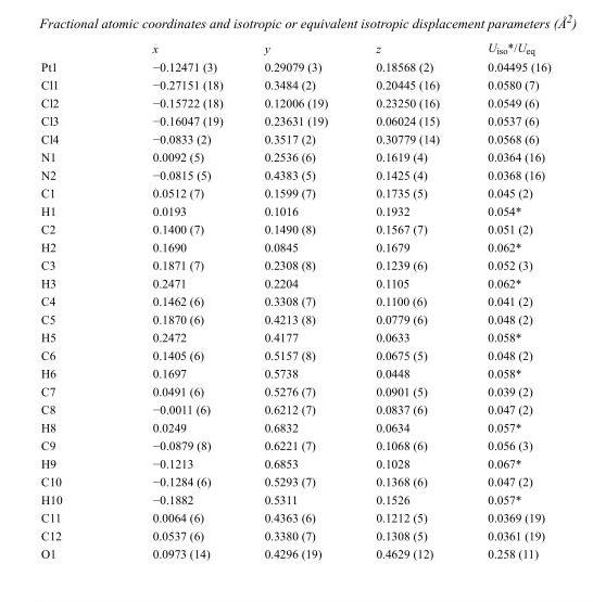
<table><thead><tr><td></td><td>x</td><td>y</td><td>z</td><td>U<sub>iso</sub>*/U<sub>eq</sub></td></tr></thead><tbody><tr><td>Pt1</td><td>−0.12471 (3)</td><td>0.29079 (3)</td><td>0.18568 (2)</td><td>0.04495 (16)</td></tr><tr><td>Cl1</td><td>−0.27151 (18)</td><td>0.3484 (2)</td><td>0.20445 (16)</td><td>0.0580 (7)</td></tr><tr><td>Cl2</td><td>−0.15722 (18)</td><td>0.12006 (19)</td><td>0.23250 (16)</td><td>0.0549 (6)</td></tr><tr><td>Cl3</td><td>−0.16047 (19)</td><td>0.23631 (19)</td><td>0.06024 (15)</td><td>0.0537 (6)</td></tr><tr><td>Cl4</td><td>−0.0833 (2)</td><td>0.3517 (2)</td><td>0.30779 (14)</td><td>0.0568 (6)</td></tr><tr><td>N1</td><td>0.0092 (5)</td><td>0.2536 (6)</td><td>0.1619 (4)</td><td>0.0364 (16)</td></tr><tr><td>N2</td><td>−0.0815 (5)</td><td>0.4383 (5)</td><td>0.1425 (4)</td><td>0.0368 (16)</td></tr><tr><td>C1</td><td>0.0512 (7)</td><td>0.1599 (7)</td><td>0.1735 (5)</td><td>0.045 (2)</td></tr><tr><td>H1</td><td>0.0193</td><td>0.1016</td><td>0.1932</td><td>0.054*</td></tr><tr><td>C2</td><td>0.1400 (7)</td><td>0.1490 (8)</td><td>0.1567 (7)</td><td>0.051 (2)</td></tr><tr><td>H2</td><td>0.1690</td><td>0.0845</td><td>0.1679</td><td>0.062*</td></tr><tr><td>C3</td><td>0.1871 (7)</td><td>0.2308 (8)</td><td>0.1239 (6)</td><td>0.052 (3)</td></tr><tr><td>H3</td><td>0.2471</td><td>0.2204</td><td>0.1105</td><td>0.062*</td></tr><tr><td>C4</td><td>0.1462 (6)</td><td>0.3308 (7)</td><td>0.1100 (6)</td><td>0.041 (2)</td></tr><tr><td>C5</td><td>0.1870 (6)</td><td>0.4213 (8)</td><td>0.0779 (6)</td><td>0.048 (2)</td></tr><tr><td>H5</td><td>0.2472</td><td>0.4177</td><td>0.0633</td><td>0.058*</td></tr><tr><td>C6</td><td>0.1405 (6)</td><td>0.5157 (8)</td><td>0.0675 (5)</td><td>0.048 (2)</td></tr><tr><td>H6</td><td>0.1697</td><td>0.5738</td><td>0.0448</td><td>0.058*</td></tr><tr><td>C7</td><td>0.0491 (6)</td><td>0.5276 (7)</td><td>0.0901 (5)</td><td>0.039 (2)</td></tr><tr><td>C8</td><td>−0.0011 (6)</td><td>0.6212 (7)</td><td>0.0837 (6)</td><td>0.047 (2)</td></tr><tr><td>H8</td><td>0.0249</td><td>0.6832</td><td>0.0634</td><td>0.057*</td></tr><tr><td>C9</td><td>−0.0879 (8)</td><td>0.6221 (7)</td><td>0.1068 (6)</td><td>0.056 (3)</td></tr><tr><td>H9</td><td>−0.1213</td><td>0.6853</td><td>0.1028</td><td>0.067*</td></tr><tr><td>C10</td><td>−0.1284 (6)</td><td>0.5293 (7)</td><td>0.1368 (6)</td><td>0.047 (2)</td></tr><tr><td>H10</td><td>−0.1882</td><td>0.5311</td><td>0.1526</td><td>0.057*</td></tr><tr><td>C11</td><td>0.0064 (6)</td><td>0.4363 (6)</td><td>0.1212 (5)</td><td>0.0369 (19)</td></tr><tr><td>C12</td><td>0.0537 (6)</td><td>0.3380 (7)</td><td>0.1308 (5)</td><td>0.0361 (19)</td></tr><tr><td>O1</td><td>0.0973 (14)</td><td>0.4296 (19)</td><td>0.4629 (12)</td><td>0.258 (11)</td></tr></tbody></table>